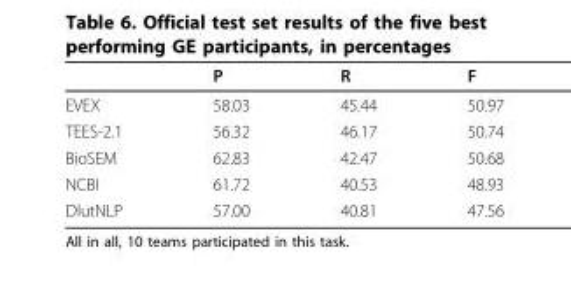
<table><thead><tr><td></td><td>P</td><td>R</td><td>F</td></tr></thead><tbody><tr><td>EVEX</td><td>58.03</td><td>45.44</td><td>50.97</td></tr><tr><td>TEES-2.1</td><td>56.32</td><td>46.17</td><td>50.74</td></tr><tr><td>BioSEM</td><td>62.83</td><td>42.47</td><td>50.68</td></tr><tr><td>NCBI</td><td>61.72</td><td>40.53</td><td>48.93</td></tr><tr><td>DlutNLP</td><td>57.00</td><td>40.81</td><td>47.56</td></tr></tbody></table>